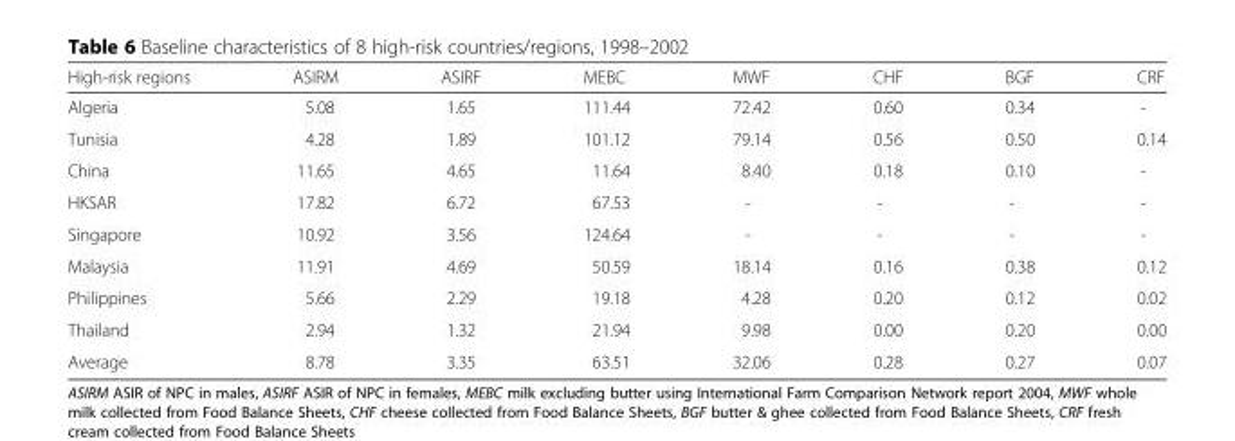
<table><thead><tr><td>High-risk regions</td><td>ASIRM</td><td>ASIRF</td><td>MEBC</td><td>MWF</td><td>CHF</td><td>BGF</td><td>CRF</td></tr></thead><tbody><tr><td>Algeria</td><td>5.08</td><td>1.65</td><td>111.44</td><td>72.42</td><td>0.60</td><td>0.34</td><td>-</td></tr><tr><td>Tunisia</td><td>4.28</td><td>1.89</td><td>101.12</td><td>79.14</td><td>0.56</td><td>0.50</td><td>0.14</td></tr><tr><td>China</td><td>11.65</td><td>4.65</td><td>11.64</td><td>8.40</td><td>0.18</td><td>0.10</td><td>-</td></tr><tr><td>HKSAR</td><td>17.82</td><td>6.72</td><td>67.53</td><td>-</td><td>-</td><td>-</td><td>-</td></tr><tr><td>Singapore</td><td>10.92</td><td>3.56</td><td>124.64</td><td>-</td><td>-</td><td>-</td><td>-</td></tr><tr><td>Malaysia</td><td>11.91</td><td>4.69</td><td>50.59</td><td>18.14</td><td>0.16</td><td>0.38</td><td>0.12</td></tr><tr><td>Philippines</td><td>5.66</td><td>2.29</td><td>19.18</td><td>4.28</td><td>0.20</td><td>0.12</td><td>0.02</td></tr><tr><td>Thailand</td><td>2.94</td><td>1.32</td><td>21.94</td><td>9.98</td><td>0.00</td><td>0.20</td><td>0.00</td></tr><tr><td>Average</td><td>8.78</td><td>3.35</td><td>63.51</td><td>32.06</td><td>0.28</td><td>0.27</td><td>0.07</td></tr></tbody></table>